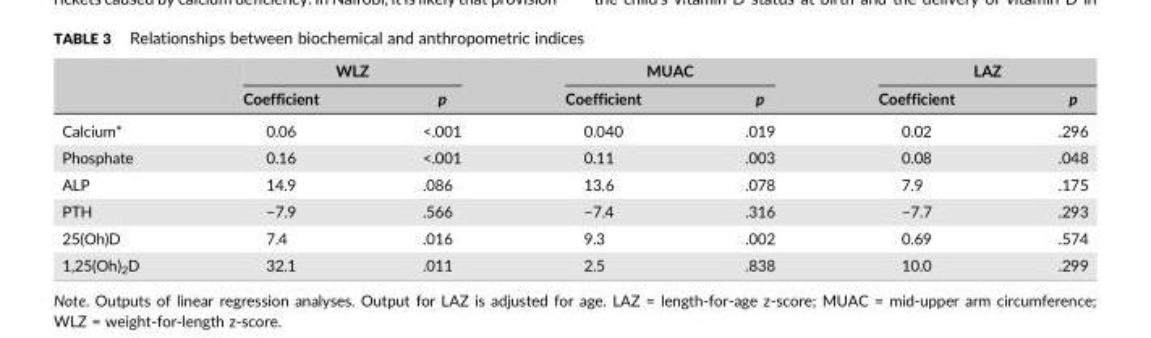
<table><thead><tr><td rowspan="2"></td><td colspan="2">WLZ</td><td colspan="2">MUAC</td><td colspan="2">LAZ</td></tr><tr><td>Coefficient</td><td>p</td><td>Coefficient</td><td>p</td><td>Coefficient</td><td>p</td></tr></thead><tbody><tr><td>Calcium*</td><td>0.06</td><td>&lt;.001</td><td>0.040</td><td>.019</td><td>0.02</td><td>.296</td></tr><tr><td>Phosphate</td><td>0.16</td><td>&lt;.001</td><td>0.11</td><td>.003</td><td>0.08</td><td>.048</td></tr><tr><td>ALP</td><td>14.9</td><td>.086</td><td>13.6</td><td>.078</td><td>7.9</td><td>.175</td></tr><tr><td>PTH</td><td>−7.9</td><td>.566</td><td>−7.4</td><td>.316</td><td>−7.7</td><td>.293</td></tr><tr><td>25(Oh)D</td><td>7.4</td><td>.016</td><td>9.3</td><td>.002</td><td>0.69</td><td>.574</td></tr><tr><td>1,25(Oh)<sub>2</sub>D</td><td>32.1</td><td>.011</td><td>2.5</td><td>.838</td><td>10.0</td><td>.299</td></tr></tbody></table>